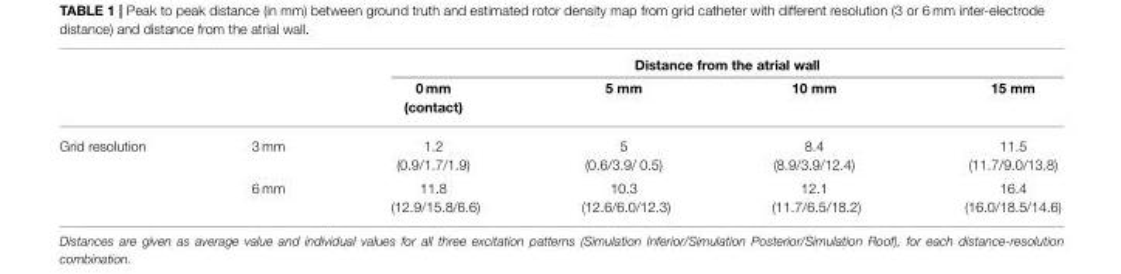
<table><thead><tr><td rowspan="2"></td><td rowspan="2"></td><td colspan="4">Distance from the atrial wall</td></tr><tr><td>0 mm (contact)</td><td>5 mm</td><td>10 mm</td><td>15 mm</td></tr></thead><tbody><tr><td rowspan="2">Grid resolution</td><td>3 mm</td><td>1.2 (0.9/1.7/1.9)</td><td>5 (0.6/3.9/ 0.5)</td><td>8.4 (8.9/3.9/12.4)</td><td>11.5 (11.7/9.0/13.8)</td></tr><tr><td>6 mm</td><td>11.8 (12.9/15.8/6.6)</td><td>10.3 (12.6/6.0/12.3)</td><td>12.1 (11.7/6.5/18.2)</td><td>16.4 (16.0/18.5/14.6)</td></tr></tbody></table>